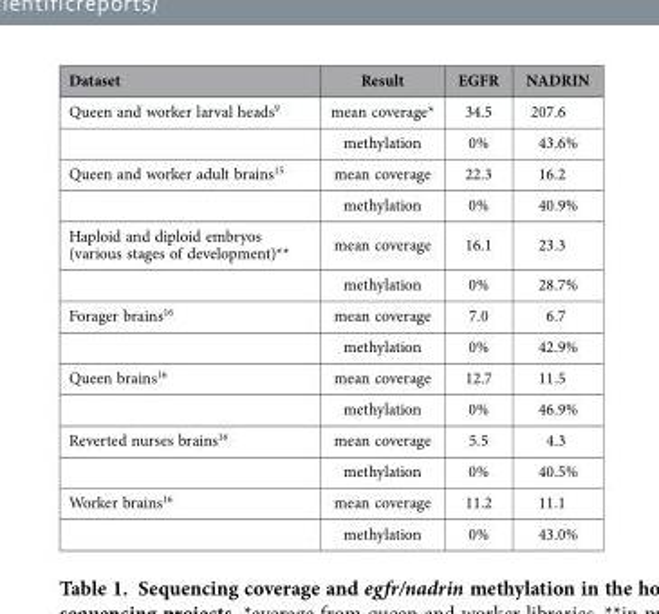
<table><thead><tr><td>Dataset</td><td>Result</td><td>EGFR</td><td>NADRIN</td></tr></thead><tbody><tr><td rowspan="2">Queen and worker larval heads<sup>9</sup></td><td>mean coverage*</td><td>34.5</td><td>207.6</td></tr><tr><td>methylation</td><td>0%</td><td>43.6%</td></tr><tr><td rowspan="2">Queen and worker adult brains<sup>15</sup></td><td>mean coverage</td><td>22.3</td><td>16.2</td></tr><tr><td>methylation</td><td>0%</td><td>40.9%</td></tr><tr><td rowspan="2">Haploid and diploid embryos (various stages of development)**</td><td>mean coverage</td><td>16.1</td><td>23.3</td></tr><tr><td>methylation</td><td>0%</td><td>28.7%</td></tr><tr><td rowspan="2">Forager brains<sup>16</sup></td><td>mean coverage</td><td>7.0</td><td>6.7</td></tr><tr><td>methylation</td><td>0%</td><td>42.9%</td></tr><tr><td rowspan="2">Queen brains<sup>16</sup></td><td>mean coverage</td><td>12.7</td><td>11.5</td></tr><tr><td>methylation</td><td>0%</td><td>46.9%</td></tr><tr><td rowspan="2">Reverted nurses brains<sup>16</sup></td><td>mean coverage</td><td>5.5</td><td>4.3</td></tr><tr><td>methylation</td><td>0%</td><td>40.5%</td></tr><tr><td rowspan="2">Worker brains<sup>16</sup></td><td>mean coverage</td><td>11.2</td><td>11.1</td></tr><tr><td>methylation</td><td>0%</td><td>43.0%</td></tr></tbody></table>